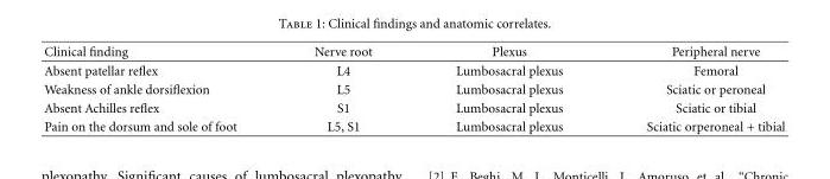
<table><thead><tr><td>Clinical finding</td><td>Nerve root</td><td>Plexus</td><td>Peripheral nerve</td></tr></thead><tbody><tr><td>Absent patellar reflex</td><td>L4</td><td>Lumbosacral plexus</td><td>Femoral</td></tr><tr><td>Weakness of ankle dorsiflexion</td><td>L5</td><td>Lumbosacral plexus</td><td>Sciatic or peroneal</td></tr><tr><td>Absent Achilles reflex</td><td>S1</td><td>Lumbosacral plexus</td><td>Sciatic or tibial</td></tr><tr><td>Pain on the dorsum and sole of foot</td><td>L5, S1</td><td>Lumbosacral plexus</td><td>Sciatic orperoneal + tibial</td></tr></tbody></table>